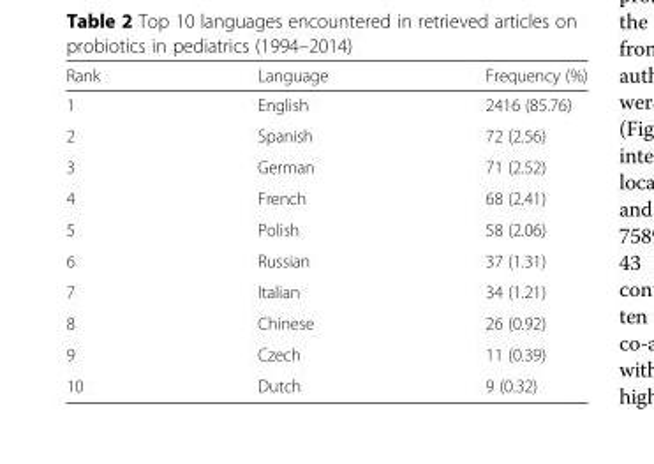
<table><thead><tr><td>Rank</td><td>Language</td><td>Frequency (%)</td></tr></thead><tbody><tr><td>1</td><td>English</td><td>2416 (85.76)</td></tr><tr><td>2</td><td>Spanish</td><td>72 (2.56)</td></tr><tr><td>3</td><td>German</td><td>71 (2.52)</td></tr><tr><td>4</td><td>French</td><td>68 (2.41)</td></tr><tr><td>5</td><td>Polish</td><td>58 (2.06)</td></tr><tr><td>6</td><td>Russian</td><td>37 (1.31)</td></tr><tr><td>7</td><td>Italian</td><td>34 (1.21)</td></tr><tr><td>8</td><td>Chinese</td><td>26 (0.92)</td></tr><tr><td>9</td><td>Czech</td><td>11 (0.39)</td></tr><tr><td>10</td><td>Dutch</td><td>9 (0.32)</td></tr></tbody></table>